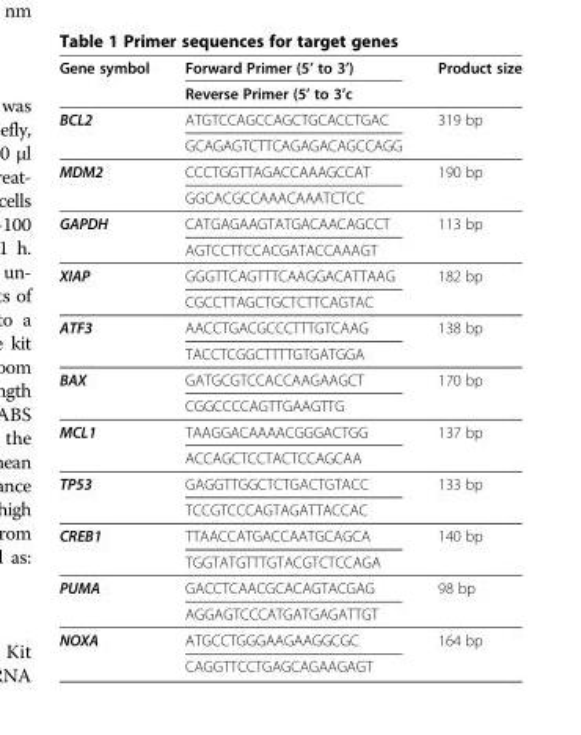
<table><thead><tr><td rowspan="2">Gene symbol</td><td rowspan="2">Forward Primer (5’ to 3’) Reverse Primer (5’ to 3’c</td><td rowspan="2">Product size</td></tr><tr></tr></thead><tbody><tr><td rowspan="2">BCL2</td><td>ATGTCCAGCCAGCTGCACCTGAC</td><td rowspan="2">319 bp</td></tr><tr><td>GCAGAGTCTTCAGAGACAGCCAGG</td></tr><tr><td rowspan="2">MDM2</td><td>CCCTGGTTAGACCAAAGCCAT</td><td rowspan="2">190 bp</td></tr><tr><td>GGCACGCCAAACAAATCTCC</td></tr><tr><td rowspan="2">GAPDH</td><td>CATGAGAAGTATGACAACAGCCT</td><td rowspan="2">113 bp</td></tr><tr><td>AGTCCTTCCACGATACCAAAGT</td></tr><tr><td rowspan="2">XIAP</td><td>GGGTTCAGTTTCAAGGACATTAAG</td><td rowspan="2">182 bp</td></tr><tr><td>CGCCTTAGCTGCTCTTCAGTAC</td></tr><tr><td rowspan="2">ATF3</td><td>AACCTGACGCCCTTTGTCAAG</td><td rowspan="2">138 bp</td></tr><tr><td>TACCTCGGCTTTTGTGATGGA</td></tr><tr><td rowspan="2">BAX</td><td>GATGCGTCCACCAAGAAGCT</td><td rowspan="2">170 bp</td></tr><tr><td>CGGCCCCAGTTGAAGTTG</td></tr><tr><td rowspan="2">MCL1</td><td>TAAGGACAAAACGGGACTGG</td><td rowspan="2">137 bp</td></tr><tr><td>ACCAGCTCCTACTCCAGCAA</td></tr><tr><td rowspan="2">TP53</td><td>GAGGTTGGCTCTGACTGTACC</td><td rowspan="2">133 bp</td></tr><tr><td>TCCGTCCCAGTAGATTACCAC</td></tr><tr><td rowspan="2">CREB1</td><td>TTAACCATGACCAATGCAGCA</td><td rowspan="2">140 bp</td></tr><tr><td>TGGTATGTTTGTACGTCTCCAGA</td></tr><tr><td rowspan="2">PUMA</td><td>GACCTCAACGCACAGTACGAG</td><td rowspan="2">98 bp</td></tr><tr><td>AGGAGTCCCATGATGAGATTGT</td></tr><tr><td rowspan="2">NOXA</td><td>ATGCCTGGGAAGAAGGCGC</td><td rowspan="2">164 bp</td></tr><tr><td>CAGGTTCCTGAGCAGAAGAGT</td></tr></tbody></table>